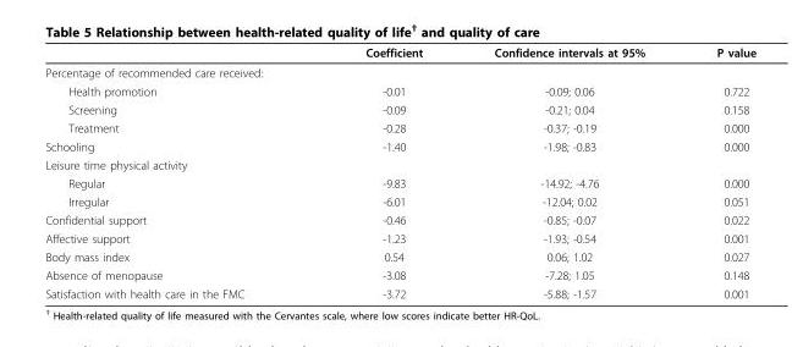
<table><thead><tr><td></td><td>Coefficient</td><td>Confidence intervals at 95%</td><td>P value</td></tr></thead><tbody><tr><td colspan="4">Percentage of recommended care received:</td></tr><tr><td>Health promotion</td><td>-0.01</td><td>-0.09; 0.06</td><td>0.722</td></tr><tr><td>Screening</td><td>-0.09</td><td>-0.21; 0.04</td><td>0.158</td></tr><tr><td>Treatment</td><td>-0.28</td><td>-0.37; -0.19</td><td>0.000</td></tr><tr><td>Schooling</td><td>-1.40</td><td>-1.98; -0.83</td><td>0.000</td></tr><tr><td colspan="4">Leisure time physical activity</td></tr><tr><td>Regular</td><td>-9.83</td><td>-14.92; -4.76</td><td>0.000</td></tr><tr><td>Irregular</td><td>-6.01</td><td>-12.04; 0.02</td><td>0.051</td></tr><tr><td>Confidential support</td><td>-0.46</td><td>-0.85; -0.07</td><td>0.022</td></tr><tr><td>Affective support</td><td>-1.23</td><td>-1.93; -0.54</td><td>0.001</td></tr><tr><td>Body mass index</td><td>0.54</td><td>0.06; 1.02</td><td>0.027</td></tr><tr><td>Absence of menopause</td><td>-3.08</td><td>-7.28; 1.05</td><td>0.148</td></tr><tr><td>Satisfaction with health care in the FMC</td><td>-3.72</td><td>-5.88; -1.57</td><td>0.001</td></tr></tbody></table>